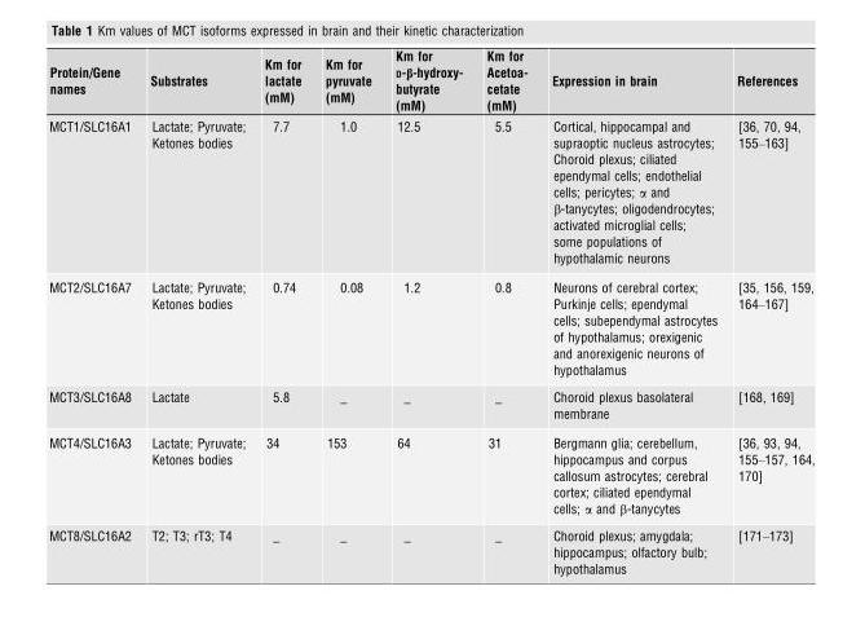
<table><thead><tr><td>Protein/Gene names</td><td>Substrates</td><td>Km for lactate (mM)</td><td>Km for pyruvate (mM)</td><td>Km for D-β-hydroxy- butyrate (mM)</td><td>Km for Acetoa- cetate (mM)</td><td>Expression in brain</td><td>References</td></tr></thead><tbody><tr><td>MCT1/SLC16A1</td><td>Lactate; Pyruvate; Ketones bodies</td><td>7.7</td><td>1.0</td><td>12.5</td><td>5.5</td><td>Cortical, hippocampal and supraoptic nucleus astrocytes; Choroid plexus; ciliated ependymal cells; endothelial cells; pericytes; α and β-tanycytes; oligodendrocytes; activated microglial cells; some populations of hypothalamic neurons</td><td>[36, 70, 94, 155–163]</td></tr><tr><td>MCT2/SLC16A7</td><td>Lactate; Pyruvate; Ketones bodies</td><td>0.74</td><td>0.08</td><td>1.2</td><td>0.8</td><td>Neurons of cerebral cortex; Purkinje cells; ependymal cells; subependymal astrocytes of hypothalamus; orexigenic and anorexigenic neurons of hypothalamus</td><td>[35, 156, 159, 164–167]</td></tr><tr><td>MCT3/SLC16A8</td><td>Lactate</td><td>5.8</td><td>_</td><td>_</td><td>_</td><td>Choroid plexus basolateral membrane</td><td>[168, 169]</td></tr><tr><td>MCT4/SLC16A3</td><td>Lactate; Pyruvate; Ketones bodies</td><td>34</td><td>153</td><td>64</td><td>31</td><td>Bergmann glia; cerebellum, hippocampus and corpus callosum astrocytes; cerebral cortex; ciliated ependymal cells; α and β-tanycytes</td><td>[36, 93, 94, 155–157, 164, 170]</td></tr><tr><td>MCT8/SLC16A2</td><td>T2; T3; rT3; T4</td><td>_</td><td>_</td><td>_</td><td>_</td><td>Choroid plexus; amygdala; hippocampus; olfactory bulb; hypothalamus</td><td>[171–173]</td></tr></tbody></table>